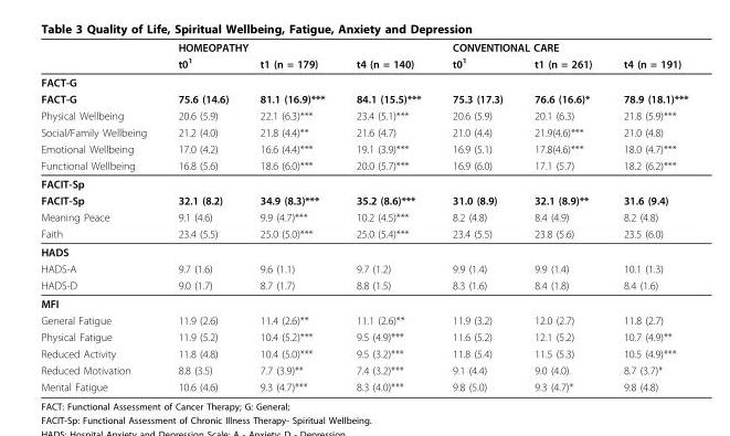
<table><thead><tr><td rowspan="2"></td><td colspan="3">HOMEOPATHY</td><td colspan="3">CONVENTIONAL CARE</td></tr><tr><td>t0<sup>1</sup></td><td>t1 (n = 179)</td><td>t4 (n = 140)</td><td>t0<sup>1</sup></td><td>t1 (n = 261)</td><td>t4 (n = 191)</td></tr></thead><tbody><tr><td colspan="7">FACT-G</td></tr><tr><td>FACT-G</td><td>75.6 (14.6)</td><td>81.1 (16.9)***</td><td>84.1 (15.5)***</td><td>75.3 (17.3)</td><td>76.6 (16.6)*</td><td>78.9 (18.1)***</td></tr><tr><td>Physical Wellbeing</td><td>20.6 (5.9)</td><td>22.1 (6.3)***</td><td>23.4 (5.1)***</td><td>20.6 (5.9)</td><td>20.1 (6.3)</td><td>21.8 (5.9)***</td></tr><tr><td>Social/Family Wellbeing</td><td>21.2 (4.0)</td><td>21.8 (4.4)**</td><td>21.6 (4.7)</td><td>21.0 (4.4)</td><td>21.9(4.6)***</td><td>21.0 (4.8)</td></tr><tr><td>Emotional Wellbeing</td><td>17.0 (4.2)</td><td>16.6 (4.4)***</td><td>19.1 (3.9)***</td><td>16.9 (5.1)</td><td>17.8(4.6)***</td><td>18.0 (4.7)***</td></tr><tr><td>Functional Wellbeing</td><td>16.8 (5.6)</td><td>18.6 (6.0)***</td><td>20.0 (5.7)***</td><td>16.9 (6.0)</td><td>17.1 (5.7)</td><td>18.2 (6.2)***</td></tr><tr><td colspan="7">FACIT-Sp</td></tr><tr><td>FACIT-Sp</td><td>32.1 (8.2)</td><td>34.9 (8.3)***</td><td>35.2 (8.6)***</td><td>31.0 (8.9)</td><td>32.1 (8.9)**</td><td>31.6 (9.4)</td></tr><tr><td>Meaning Peace</td><td>9.1 (4.6)</td><td>9.9 (4.7)***</td><td>10.2 (4.5)***</td><td>8.2 (4.8)</td><td>8.4 (4.9)</td><td>8.2 (4.8)</td></tr><tr><td>Faith</td><td>23.4 (5.5)</td><td>25.0 (5.0)***</td><td>25.0 (5.4)***</td><td>23.4 (5.5)</td><td>23.8 (5.6)</td><td>23.5 (6.0)</td></tr><tr><td colspan="7">HADS</td></tr><tr><td>HADS-A</td><td>9.7 (1.6)</td><td>9.6 (1.1)</td><td>9.7 (1.2)</td><td>9.9 (1.4)</td><td>9.9 (1.4)</td><td>10.1 (1.3)</td></tr><tr><td>HADS-D</td><td>9.0 (1.7)</td><td>8.7 (1.7)</td><td>8.8 (1.5)</td><td>8.3 (1.6)</td><td>8.4 (1.8)</td><td>8.4 (1.6)</td></tr><tr><td colspan="7">MFI</td></tr><tr><td>General Fatigue</td><td>11.9 (2.6)</td><td>11.4 (2.6)**</td><td>11.1 (2.6)**</td><td>11.9 (3.2)</td><td>12.0 (2.7)</td><td>11.8 (2.7)</td></tr><tr><td>Physical Fatigue</td><td>11.9 (5.2)</td><td>10.4 (5.2)***</td><td>9.5 (4.9)***</td><td>11.6 (5.2)</td><td>12.1 (5.2)</td><td>10.7 (4.9)**</td></tr><tr><td>Reduced Activity</td><td>11.8 (4.8)</td><td>10.4 (5.0)***</td><td>9.5 (3.2)***</td><td>11.8 (5.4)</td><td>11.5 (5.3)</td><td>10.5 (4.9)***</td></tr><tr><td>Reduced Motivation</td><td>8.8 (3.5)</td><td>7.7 (3.9)**</td><td>7.4 (3.2)***</td><td>9.1 (4.4)</td><td>9.0 (4.0)</td><td>8.7 (3.7)*</td></tr><tr><td>Mental Fatigue</td><td>10.6 (4.6)</td><td>9.3 (4.7)***</td><td>8.3 (4.0)***</td><td>9.8 (5.0)</td><td>9.3 (4.7)*</td><td>9.8 (4.8)</td></tr></tbody></table>